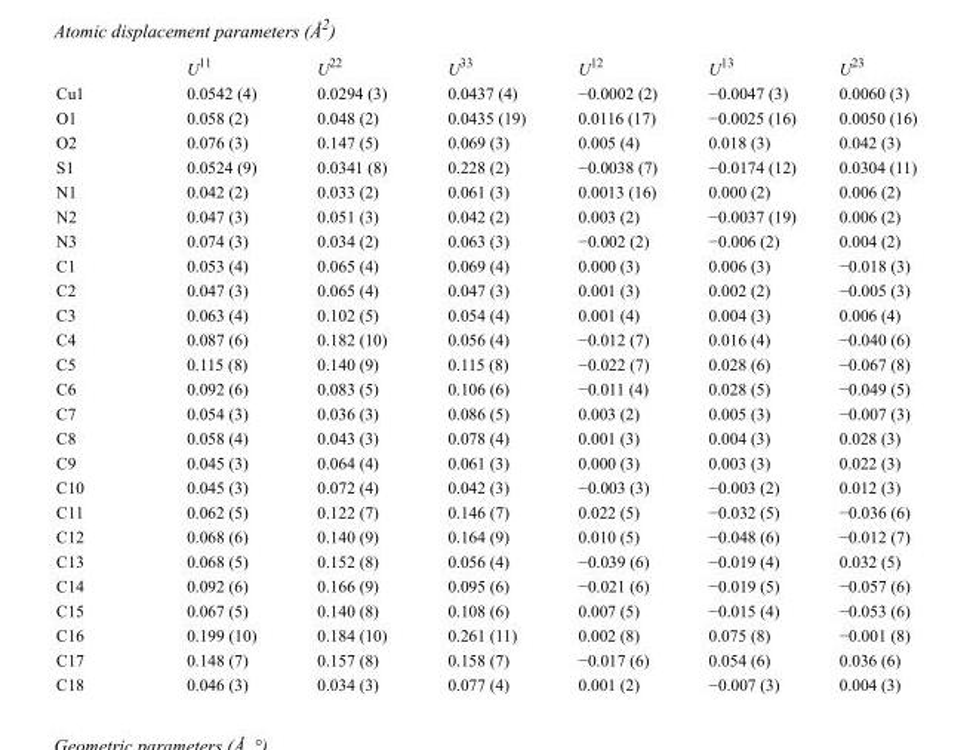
<table><thead><tr><td></td><td>U<sup>11</sup></td><td>U<sup>22</sup></td><td>U<sup>33</sup></td><td>U<sup>12</sup></td><td>U<sup>13</sup></td><td>U<sup>23</sup></td></tr></thead><tbody><tr><td>Cu1</td><td>0.0542 (4)</td><td>0.0294 (3)</td><td>0.0437 (4)</td><td>−0.0002 (2)</td><td>−0.0047 (3)</td><td>0.0060 (3)</td></tr><tr><td>O1</td><td>0.058 (2)</td><td>0.048 (2)</td><td>0.0435 (19)</td><td>0.0116 (17)</td><td>−0.0025 (16)</td><td>0.0050 (16)</td></tr><tr><td>O2</td><td>0.076 (3)</td><td>0.147 (5)</td><td>0.069 (3)</td><td>0.005 (4)</td><td>0.018 (3)</td><td>0.042 (3)</td></tr><tr><td>S1</td><td>0.0524 (9)</td><td>0.0341 (8)</td><td>0.228 (2)</td><td>−0.0038 (7)</td><td>−0.0174 (12)</td><td>0.0304 (11)</td></tr><tr><td>N1</td><td>0.042 (2)</td><td>0.033 (2)</td><td>0.061 (3)</td><td>0.0013 (16)</td><td>0.000 (2)</td><td>0.006 (2)</td></tr><tr><td>N2</td><td>0.047 (3)</td><td>0.051 (3)</td><td>0.042 (2)</td><td>0.003 (2)</td><td>−0.0037 (19)</td><td>0.006 (2)</td></tr><tr><td>N3</td><td>0.074 (3)</td><td>0.034 (2)</td><td>0.063 (3)</td><td>−0.002 (2)</td><td>−0.006 (2)</td><td>0.004 (2)</td></tr><tr><td>C1</td><td>0.053 (4)</td><td>0.065 (4)</td><td>0.069 (4)</td><td>0.000 (3)</td><td>0.006 (3)</td><td>−0.018 (3)</td></tr><tr><td>C2</td><td>0.047 (3)</td><td>0.065 (4)</td><td>0.047 (3)</td><td>0.001 (3)</td><td>0.002 (2)</td><td>−0.005 (3)</td></tr><tr><td>C3</td><td>0.063 (4)</td><td>0.102 (5)</td><td>0.054 (4)</td><td>0.001 (4)</td><td>0.004 (3)</td><td>0.006 (4)</td></tr><tr><td>C4</td><td>0.087 (6)</td><td>0.182 (10)</td><td>0.056 (4)</td><td>−0.012 (7)</td><td>0.016 (4)</td><td>−0.040 (6)</td></tr><tr><td>C5</td><td>0.115 (8)</td><td>0.140 (9)</td><td>0.115 (8)</td><td>−0.022 (7)</td><td>0.028 (6)</td><td>−0.067 (8)</td></tr><tr><td>C6</td><td>0.092 (6)</td><td>0.083 (5)</td><td>0.106 (6)</td><td>−0.011 (4)</td><td>0.028 (5)</td><td>−0.049 (5)</td></tr><tr><td>C7</td><td>0.054 (3)</td><td>0.036 (3)</td><td>0.086 (5)</td><td>0.003 (2)</td><td>0.005 (3)</td><td>−0.007 (3)</td></tr><tr><td>C8</td><td>0.058 (4)</td><td>0.043 (3)</td><td>0.078 (4)</td><td>0.001 (3)</td><td>0.004 (3)</td><td>0.028 (3)</td></tr><tr><td>C9</td><td>0.045 (3)</td><td>0.064 (4)</td><td>0.061 (3)</td><td>0.000 (3)</td><td>0.003 (3)</td><td>0.022 (3)</td></tr><tr><td>C10</td><td>0.045 (3)</td><td>0.072 (4)</td><td>0.042 (3)</td><td>−0.003 (3)</td><td>−0.003 (2)</td><td>0.012 (3)</td></tr><tr><td>C11</td><td>0.062 (5)</td><td>0.122 (7)</td><td>0.146 (7)</td><td>0.022 (5)</td><td>−0.032 (5)</td><td>−0.036 (6)</td></tr><tr><td>C12</td><td>0.068 (6)</td><td>0.140 (9)</td><td>0.164 (9)</td><td>0.010 (5)</td><td>−0.048 (6)</td><td>−0.012 (7)</td></tr><tr><td>C13</td><td>0.068 (5)</td><td>0.152 (8)</td><td>0.056 (4)</td><td>−0.039 (6)</td><td>−0.019 (4)</td><td>0.032 (5)</td></tr><tr><td>C14</td><td>0.092 (6)</td><td>0.166 (9)</td><td>0.095 (6)</td><td>−0.021 (6)</td><td>−0.019 (5)</td><td>−0.057 (6)</td></tr><tr><td>C15</td><td>0.067 (5)</td><td>0.140 (8)</td><td>0.108 (6)</td><td>0.007 (5)</td><td>−0.015 (4)</td><td>−0.053 (6)</td></tr><tr><td>C16</td><td>0.199 (10)</td><td>0.184 (10)</td><td>0.261 (11)</td><td>0.002 (8)</td><td>0.075 (8)</td><td>−0.001 (8)</td></tr><tr><td>C17</td><td>0.148 (7)</td><td>0.157 (8)</td><td>0.158 (7)</td><td>−0.017 (6)</td><td>0.054 (6)</td><td>0.036 (6)</td></tr><tr><td>C18</td><td>0.046 (3)</td><td>0.034 (3)</td><td>0.077 (4)</td><td>0.001 (2)</td><td>−0.007 (3)</td><td>0.004 (3)</td></tr></tbody></table>